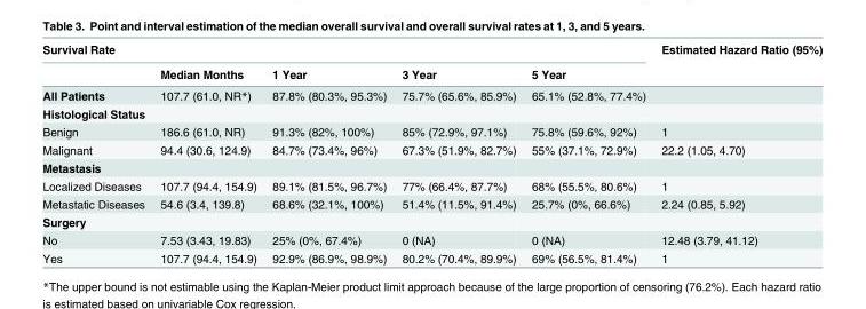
<table><thead><tr><td colspan="5">Survival Rate</td><td rowspan="2">Estimated Hazard Ratio (95%)</td></tr><tr><td></td><td>Median Months</td><td>1 Year</td><td>3 Year</td><td>5 Year</td></tr></thead><tbody><tr><td>All Patients</td><td>107.7 (61.0, NR*)</td><td>87.8% (80.3%, 95.3%)</td><td>75.7% (65.6%, 85.9%)</td><td>65.1% (52.8%, 77.4%)</td><td></td></tr><tr><td colspan="6">Histological Status</td></tr><tr><td>Benign</td><td>186.6 (61.0, NR)</td><td>91.3% (82%, 100%)</td><td>85% (72.9%, 97.1%)</td><td>75.8% (59.6%, 92%)</td><td>1</td></tr><tr><td>Malignant</td><td>94.4 (30.6, 124.9)</td><td>84.7% (73.4%, 96%)</td><td>67.3% (51.9%, 82.7%)</td><td>55% (37.1%, 72.9%)</td><td>22.2 (1.05, 4.70)</td></tr><tr><td colspan="6">Metastasis</td></tr><tr><td>Localized Diseases</td><td>107.7 (94.4, 154.9)</td><td>89.1% (81.5%, 96.7%)</td><td>77% (66.4%, 87.7%)</td><td>68% (55.5%, 80.6%)</td><td>1</td></tr><tr><td>Metastatic Diseases</td><td>54.6 (3.4, 139.8)</td><td>68.6% (32.1%, 100%)</td><td>51.4% (11.5%, 91.4%)</td><td>25.7% (0%, 66.6%)</td><td>2.24 (0.85, 5.92)</td></tr><tr><td colspan="6">Surgery</td></tr><tr><td>No</td><td>7.53 (3.43, 19.83)</td><td>25% (0%, 67.4%)</td><td>0 (NA)</td><td>0 (NA)</td><td>12.48 (3.79, 41.12)</td></tr><tr><td>Yes</td><td>107.7 (94.4, 154.9)</td><td>92.9% (86.9%, 98.9%)</td><td>80.2% (70.4%, 89.9%)</td><td>69% (56.5%, 81.4%)</td><td>1</td></tr></tbody></table>